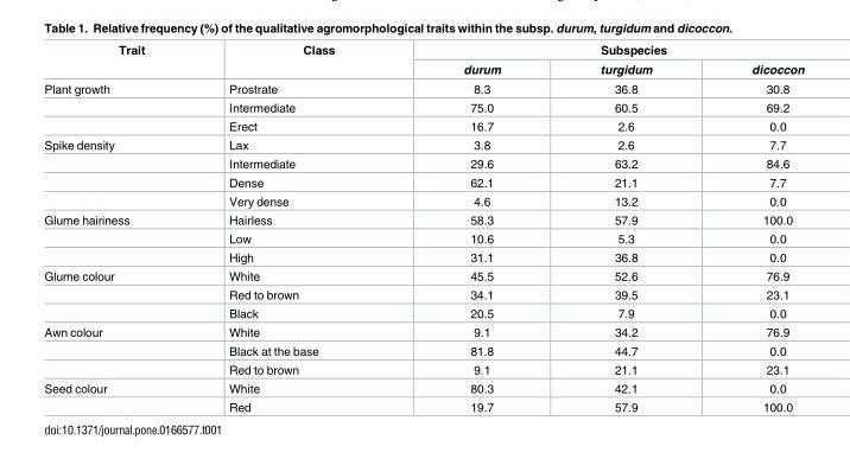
<table><thead><tr><td rowspan="2">Trait</td><td rowspan="2">Class</td><td colspan="3">Subspecies</td></tr><tr><td>durum</td><td>turgidum</td><td>dicoccon</td></tr></thead><tbody><tr><td rowspan="3">Plant growth</td><td>Prostrate</td><td>8.3</td><td>36.8</td><td>30.8</td></tr><tr><td>Intermediate</td><td>75.0</td><td>60.5</td><td>69.2</td></tr><tr><td>Erect</td><td>16.7</td><td>2.6</td><td>0.0</td></tr><tr><td rowspan="4">Spike density</td><td>Lax</td><td>3.8</td><td>2.6</td><td>7.7</td></tr><tr><td>Intermediate</td><td>29.6</td><td>63.2</td><td>84.6</td></tr><tr><td>Dense</td><td>62.1</td><td>21.1</td><td>7.7</td></tr><tr><td>Very dense</td><td>4.6</td><td>13.2</td><td>0.0</td></tr><tr><td rowspan="3">Glume hairiness</td><td>Hairless</td><td>58.3</td><td>57.9</td><td>100.0</td></tr><tr><td>Low</td><td>10.6</td><td>5.3</td><td>0.0</td></tr><tr><td>High</td><td>31.1</td><td>36.8</td><td>0.0</td></tr><tr><td rowspan="3">Glume colour</td><td>White</td><td>45.5</td><td>52.6</td><td>76.9</td></tr><tr><td>Red to brown</td><td>34.1</td><td>39.5</td><td>23.1</td></tr><tr><td>Black</td><td>20.5</td><td>7.9</td><td>0.0</td></tr><tr><td rowspan="3">Awn colour</td><td>White</td><td>9.1</td><td>34.2</td><td>76.9</td></tr><tr><td>Black at the base</td><td>81.8</td><td>44.7</td><td>0.0</td></tr><tr><td>Red to brown</td><td>9.1</td><td>21.1</td><td>23.1</td></tr><tr><td rowspan="2">Seed colour</td><td>White</td><td>80.3</td><td>42.1</td><td>0.0</td></tr><tr><td>Red</td><td>19.7</td><td>57.9</td><td>100.0</td></tr></tbody></table>